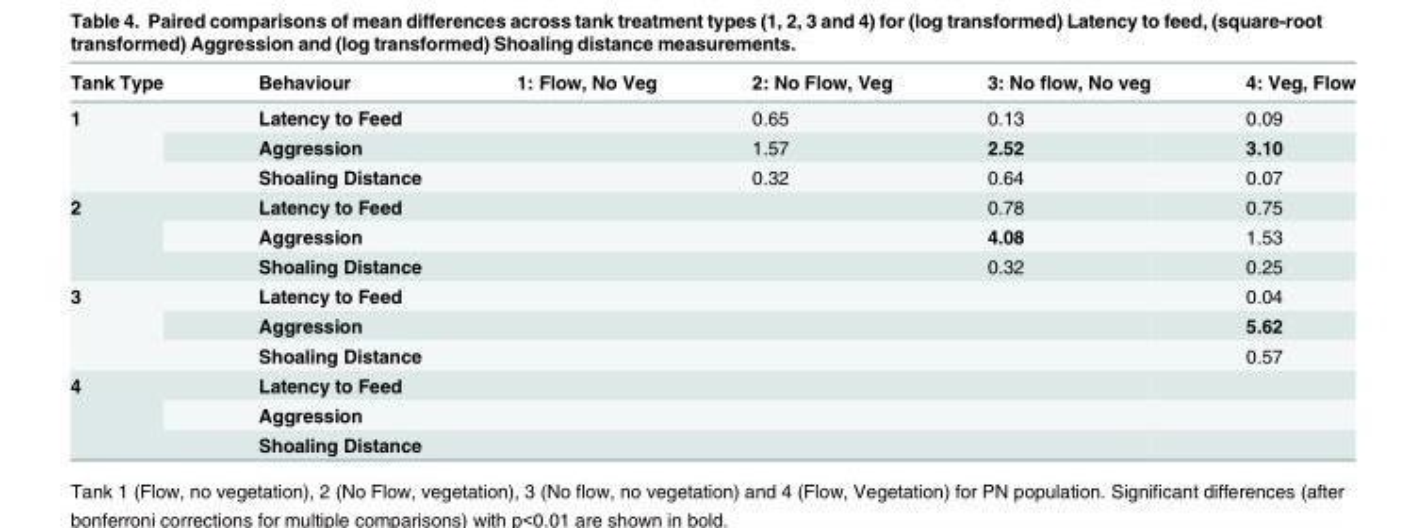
<table><thead><tr><td>Tank Type</td><td>Behaviour</td><td>1: Flow, No Veg</td><td>2: No Flow, Veg</td><td>3: No flow, No veg</td><td>4: Veg, Flow</td></tr></thead><tbody><tr><td rowspan="3">1</td><td>Latency to Feed</td><td></td><td>0.65</td><td>0.13</td><td>0.09</td></tr><tr><td>Aggression</td><td></td><td>1.57</td><td>2.52</td><td>3.10</td></tr><tr><td>Shoaling Distance</td><td></td><td>0.32</td><td>0.64</td><td>0.07</td></tr><tr><td rowspan="3">2</td><td>Latency to Feed</td><td></td><td></td><td>0.78</td><td>0.75</td></tr><tr><td>Aggression</td><td></td><td></td><td>4.08</td><td>1.53</td></tr><tr><td>Shoaling Distance</td><td></td><td></td><td>0.32</td><td>0.25</td></tr><tr><td rowspan="3">3</td><td>Latency to Feed</td><td></td><td></td><td></td><td>0.04</td></tr><tr><td>Aggression</td><td></td><td></td><td></td><td>5.62</td></tr><tr><td>Shoaling Distance</td><td></td><td></td><td></td><td>0.57</td></tr><tr><td rowspan="3">4</td><td>Latency to Feed</td><td></td><td></td><td></td><td></td></tr><tr><td>Aggression</td><td></td><td></td><td></td><td></td></tr><tr><td>Shoaling Distance</td><td></td><td></td><td></td><td></td></tr></tbody></table>